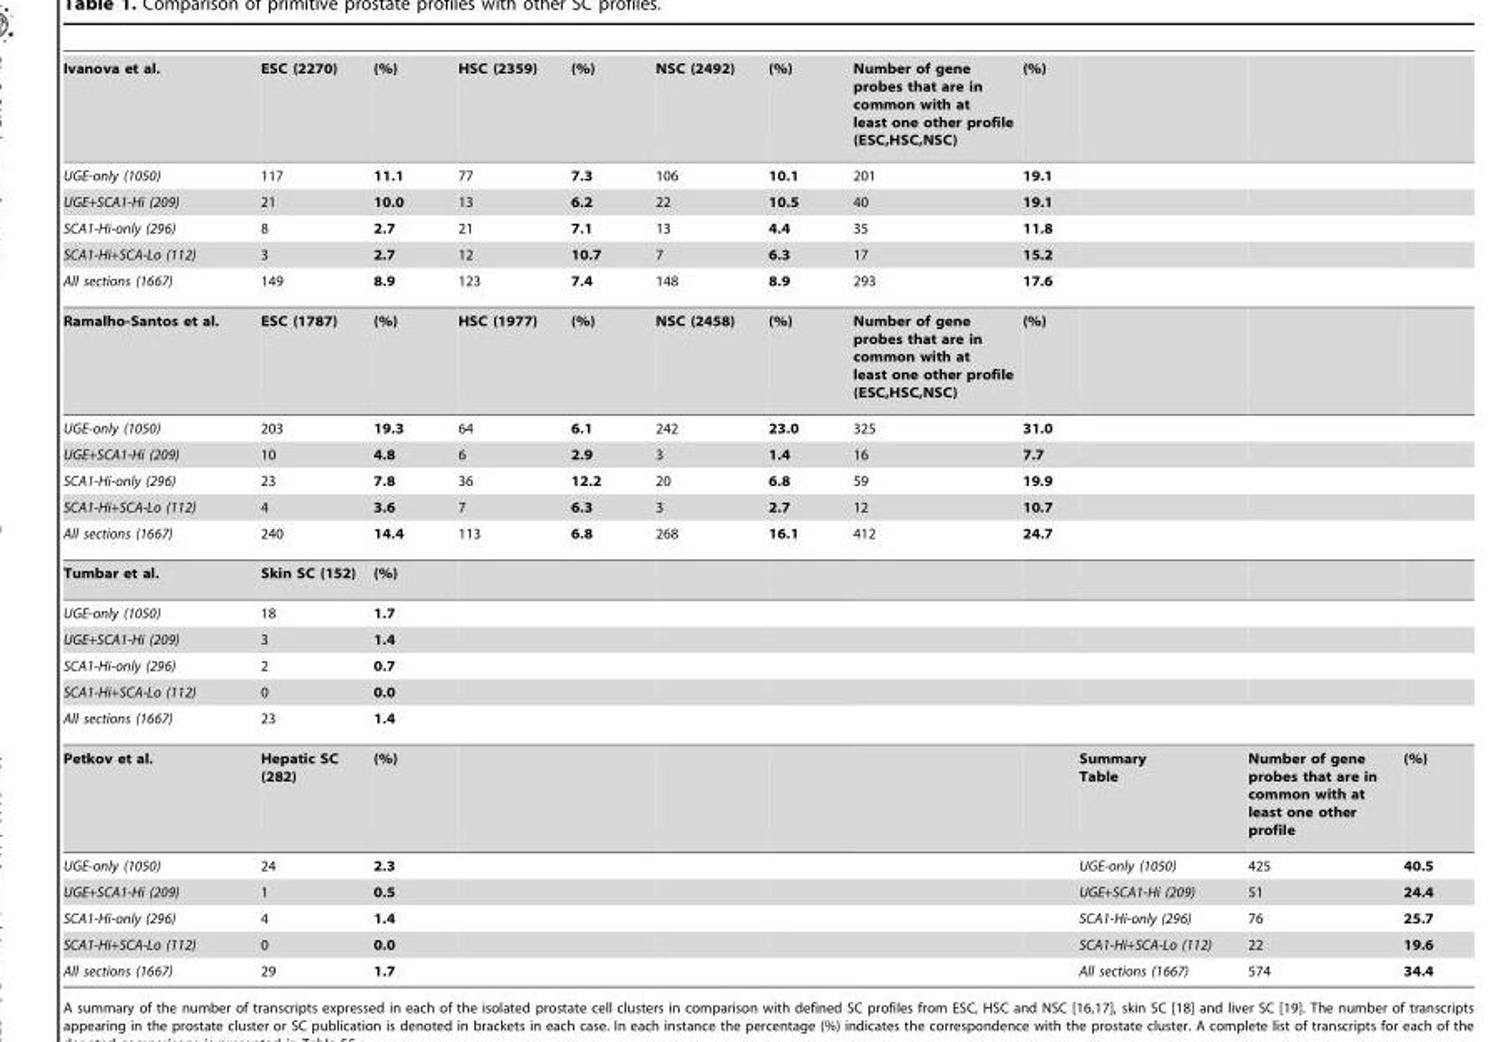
<table><tbody><tr><td>Ivanova et al.</td><td>ESC (2270)</td><td>(%)</td><td>HSC (2359)</td><td>(%)</td><td>NSC (2492)</td><td>(%)</td><td>Number of gene probes that are in common with at least one other profile (ESC,HSC,NSC)</td><td>(%)</td><td></td><td></td><td></td></tr><tr><td>UGE-only (1050)</td><td>117</td><td>11.1</td><td>77</td><td>7.3</td><td>106</td><td>10.1</td><td>201</td><td>19.1</td><td></td><td></td><td></td></tr><tr><td>UGE+SCA1-Hi (209)</td><td>21</td><td>10.0</td><td>13</td><td>6.2</td><td>22</td><td>10.5</td><td>40</td><td>19.1</td><td></td><td></td><td></td></tr><tr><td>SCA1-Hi-only (296)</td><td>8</td><td>2.7</td><td>21</td><td>7.1</td><td>13</td><td>4.4</td><td>35</td><td>11.8</td><td></td><td></td><td></td></tr><tr><td>SCA1-Hi+SCA-Lo (112)</td><td>3</td><td>2.7</td><td>12</td><td>10.7</td><td>7</td><td>6.3</td><td>17</td><td>15.2</td><td></td><td></td><td></td></tr><tr><td>All sections (1667)</td><td>149</td><td>8.9</td><td>123</td><td>7.4</td><td>148</td><td>8.9</td><td>293</td><td>17.6</td><td></td><td></td><td></td></tr><tr><td>Ramalho-Santos et al.</td><td>ESC (1787)</td><td>(%)</td><td>HSC (1977)</td><td>(%)</td><td>NSC (2458)</td><td>(%)</td><td>Number of gene probes that are in common with at least one other profile (ESC,HSC,NSC)</td><td>(%)</td><td></td><td></td><td></td></tr><tr><td>UGE-only (1050)</td><td>203</td><td>19.3</td><td>64</td><td>6.1</td><td>242</td><td>23.0</td><td>325</td><td>31.0</td><td></td><td></td><td></td></tr><tr><td>UGE+SCA1-Hi (209)</td><td>10</td><td>4.8</td><td>6</td><td>2.9</td><td>3</td><td>1.4</td><td>16</td><td>7.7</td><td></td><td></td><td></td></tr><tr><td>SCA1-Hi-only (296)</td><td>23</td><td>7.8</td><td>36</td><td>12.2</td><td>20</td><td>6.8</td><td>59</td><td>19.9</td><td></td><td></td><td></td></tr><tr><td>SCA1-Hi+SCA-Lo (112)</td><td>4</td><td>3.6</td><td>7</td><td>6.3</td><td>3</td><td>2.7</td><td>12</td><td>10.7</td><td></td><td></td><td></td></tr><tr><td>All sections (1667)</td><td>240</td><td>14.4</td><td>113</td><td>6.8</td><td>268</td><td>16.1</td><td>412</td><td>24.7</td><td></td><td></td><td></td></tr><tr><td>Tumbar et al.</td><td>Skin SC (152)</td><td>(%)</td><td></td><td></td><td></td><td></td><td></td><td></td><td></td><td></td><td></td></tr><tr><td>UGE-only (1050)</td><td>18</td><td>1.7</td><td></td><td></td><td></td><td></td><td></td><td></td><td></td><td></td><td></td></tr><tr><td>UGE+SCA1-Hi (209)</td><td>3</td><td>1.4</td><td></td><td></td><td></td><td></td><td></td><td></td><td></td><td></td><td></td></tr><tr><td>SCA1-Hi-only (296)</td><td>2</td><td>0.7</td><td></td><td></td><td></td><td></td><td></td><td></td><td></td><td></td><td></td></tr><tr><td>SCA1-Hi+SCA-Lo (112)</td><td>0</td><td>0.0</td><td></td><td></td><td></td><td></td><td></td><td></td><td></td><td></td><td></td></tr><tr><td>All sections (1667)</td><td>23</td><td>1.4</td><td></td><td></td><td></td><td></td><td></td><td></td><td></td><td></td><td></td></tr><tr><td>Petkov et al.</td><td>Hepatic SC (282)</td><td>(%)</td><td></td><td></td><td></td><td></td><td></td><td></td><td>Summary Table</td><td>Number of gene probes that are in common with at least one other profile</td><td>(%)</td></tr><tr><td>UGE-only (1050)</td><td>24</td><td>2.3</td><td></td><td></td><td></td><td></td><td></td><td></td><td>UGE-only (1050)</td><td>425</td><td>40.5</td></tr><tr><td>UGE+SCA1-Hi (209)</td><td>1</td><td>0.5</td><td></td><td></td><td></td><td></td><td></td><td></td><td>UGE+SCA1-Hi (209)</td><td>51</td><td>24.4</td></tr><tr><td>SCA1-Hi-only (296)</td><td>4</td><td>1.4</td><td></td><td></td><td></td><td></td><td></td><td></td><td>SCA1-Hi-only (296)</td><td>76</td><td>25.7</td></tr><tr><td>SCA1-Hi+SCA-Lo (112)</td><td>0</td><td>0.0</td><td></td><td></td><td></td><td></td><td></td><td></td><td>SCA1-Hi+SCA-Lo (112)</td><td>22</td><td>19.6</td></tr><tr><td>All sections (1667)</td><td>29</td><td>1.7</td><td></td><td></td><td></td><td></td><td></td><td></td><td>All sections (1667)</td><td>574</td><td>34.4</td></tr></tbody></table>